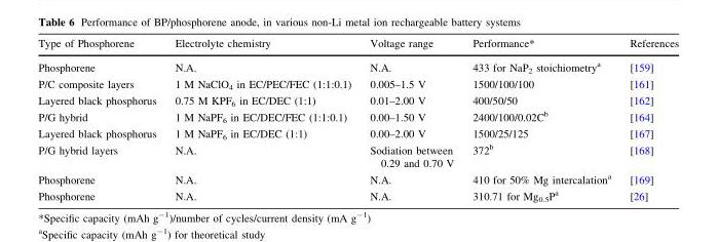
<table><thead><tr><td>Type of Phosphorene</td><td>Electrolyte chemistry</td><td>Voltage range</td><td>Performance*</td><td>References</td></tr></thead><tbody><tr><td>Phosphorene</td><td>N.A.</td><td>N.A.</td><td>433 for NaP<sub>2</sub> stoichiometry<sup>a</sup></td><td>[159]</td></tr><tr><td>P/C composite layers</td><td>1 M NaClO<sub>4</sub> in EC/PEC/FEC (1:1:0.1)</td><td>0.005–1.5 V</td><td>1500/100/100</td><td>[161]</td></tr><tr><td>Layered black phosphorus</td><td>0.75 M KPF<sub>6</sub> in EC/DEC (1:1)</td><td>0.01–2.00 V</td><td>400/50/50</td><td>[162]</td></tr><tr><td>P/G hybrid</td><td>1 M NaPF<sub>6</sub> in EC/DEC/FEC (1:1:0.1)</td><td>0.00–1.50 V</td><td>2400/100/0.02C<sup>b</sup></td><td>[164]</td></tr><tr><td>Layered black phosphorus</td><td>1 M NaPF<sub>6</sub> in EC/DEC (1:1)</td><td>0.00–2.00 V</td><td>1500/25/125</td><td>[167]</td></tr><tr><td>P/G hybrid layers</td><td>N.A.</td><td>Sodiation between 0.29 and 0.70 V</td><td>372<sup>b</sup></td><td>[168]</td></tr><tr><td>Phosphorene</td><td>N.A.</td><td>N.A.</td><td>410 for 50% Mg intercalation<sup>a</sup></td><td>[169]</td></tr><tr><td>Phosphorene</td><td>N.A.</td><td>N.A.</td><td>310.71 for Mg<sub>0.5</sub>P<sup>a</sup></td><td>[26]</td></tr></tbody></table>